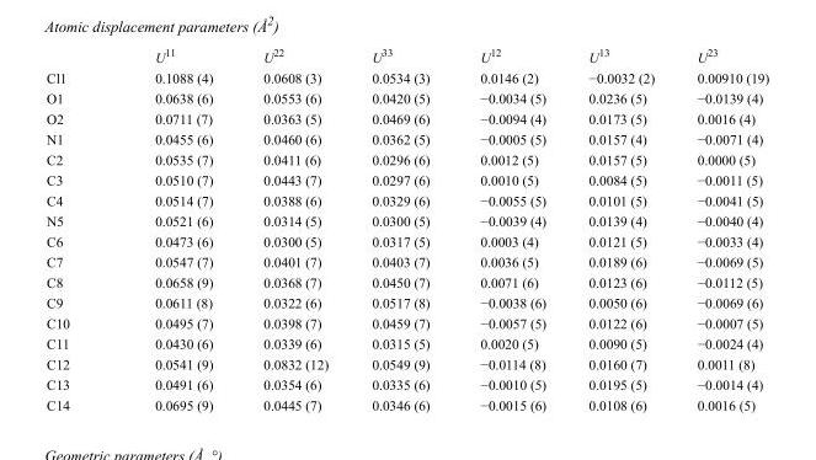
<table><thead><tr><td></td><td>U<sup>11</sup></td><td>U<sup>22</sup></td><td>U<sup>33</sup></td><td>U<sup>12</sup></td><td>U<sup>13</sup></td><td>U<sup>23</sup></td></tr></thead><tbody><tr><td>Cl1</td><td>0.1088 (4)</td><td>0.0608 (3)</td><td>0.0534 (3)</td><td>0.0146 (2)</td><td>−0.0032 (2)</td><td>0.00910 (19)</td></tr><tr><td>O1</td><td>0.0638 (6)</td><td>0.0553 (6)</td><td>0.0420 (5)</td><td>−0.0034 (5)</td><td>0.0236 (5)</td><td>−0.0139 (4)</td></tr><tr><td>O2</td><td>0.0711 (7)</td><td>0.0363 (5)</td><td>0.0469 (6)</td><td>−0.0094 (4)</td><td>0.0173 (5)</td><td>0.0016 (4)</td></tr><tr><td>N1</td><td>0.0455 (6)</td><td>0.0460 (6)</td><td>0.0362 (5)</td><td>−0.0005 (5)</td><td>0.0157 (4)</td><td>−0.0071 (4)</td></tr><tr><td>C2</td><td>0.0535 (7)</td><td>0.0411 (6)</td><td>0.0296 (6)</td><td>0.0012 (5)</td><td>0.0157 (5)</td><td>0.0000 (5)</td></tr><tr><td>C3</td><td>0.0510 (7)</td><td>0.0443 (7)</td><td>0.0297 (6)</td><td>0.0010 (5)</td><td>0.0084 (5)</td><td>−0.0011 (5)</td></tr><tr><td>C4</td><td>0.0514 (7)</td><td>0.0388 (6)</td><td>0.0329 (6)</td><td>−0.0055 (5)</td><td>0.0101 (5)</td><td>−0.0041 (5)</td></tr><tr><td>N5</td><td>0.0521 (6)</td><td>0.0314 (5)</td><td>0.0300 (5)</td><td>−0.0039 (4)</td><td>0.0139 (4)</td><td>−0.0040 (4)</td></tr><tr><td>C6</td><td>0.0473 (6)</td><td>0.0300 (5)</td><td>0.0317 (5)</td><td>0.0003 (4)</td><td>0.0121 (5)</td><td>−0.0033 (4)</td></tr><tr><td>C7</td><td>0.0547 (7)</td><td>0.0401 (7)</td><td>0.0403 (7)</td><td>0.0036 (5)</td><td>0.0189 (6)</td><td>−0.0069 (5)</td></tr><tr><td>C8</td><td>0.0658 (9)</td><td>0.0368 (7)</td><td>0.0450 (7)</td><td>0.0071 (6)</td><td>0.0123 (6)</td><td>−0.0112 (5)</td></tr><tr><td>C9</td><td>0.0611 (8)</td><td>0.0322 (6)</td><td>0.0517 (8)</td><td>−0.0038 (6)</td><td>0.0050 (6)</td><td>−0.0069 (6)</td></tr><tr><td>C10</td><td>0.0495 (7)</td><td>0.0398 (7)</td><td>0.0459 (7)</td><td>−0.0057 (5)</td><td>0.0122 (6)</td><td>−0.0007 (5)</td></tr><tr><td>C11</td><td>0.0430 (6)</td><td>0.0339 (6)</td><td>0.0315 (5)</td><td>0.0020 (5)</td><td>0.0090 (5)</td><td>−0.0024 (4)</td></tr><tr><td>C12</td><td>0.0541 (9)</td><td>0.0832 (12)</td><td>0.0549 (9)</td><td>−0.0114 (8)</td><td>0.0160 (7)</td><td>0.0011 (8)</td></tr><tr><td>C13</td><td>0.0491 (6)</td><td>0.0354 (6)</td><td>0.0335 (6)</td><td>−0.0010 (5)</td><td>0.0195 (5)</td><td>−0.0014 (4)</td></tr><tr><td>C14</td><td>0.0695 (9)</td><td>0.0445 (7)</td><td>0.0346 (6)</td><td>−0.0015 (6)</td><td>0.0108 (6)</td><td>0.0016 (5)</td></tr></tbody></table>